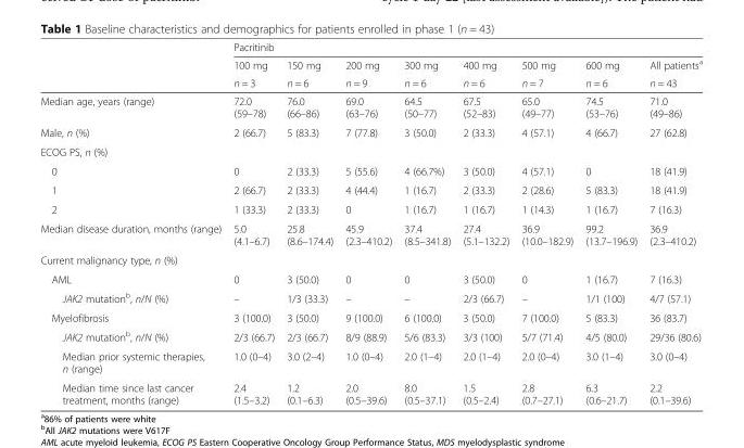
<table><thead><tr><td rowspan="3"></td><td colspan="8">Pacritinib</td></tr><tr><td rowspan="2">100 mg n = 3</td><td rowspan="2">150 mg n = 6</td><td rowspan="2">200 mg n = 9</td><td rowspan="2">300 mg n = 6</td><td rowspan="2">400 mg n = 6</td><td rowspan="2">500 mg n = 7</td><td rowspan="2">600 mg n = 6</td><td rowspan="2">All patients<sup>a</sup> n = 43</td></tr><tr></tr></thead><tbody><tr><td>Median age, years (range)</td><td>72.0 (59–78)</td><td>76.0 (66–86)</td><td>69.0 (63–76)</td><td>64.5 (50–77)</td><td>67.5 (52–83)</td><td>65.0 (49–77)</td><td>74.5 (53–76)</td><td>71.0 (49–86)</td></tr><tr><td>Male, n (%)</td><td>2 (66.7)</td><td>5 (83.3)</td><td>7 (77.8)</td><td>3 (50.0)</td><td>2 (33.3)</td><td>4 (57.1)</td><td>4 (66.7)</td><td>27 (62.8)</td></tr><tr><td colspan="9">ECOG PS, n (%)</td></tr><tr><td>0</td><td>0</td><td>2 (33.3)</td><td>5 (55.6)</td><td>4 (66.7%)</td><td>3 (50.0)</td><td>4 (57.1)</td><td>0</td><td>18 (41.9)</td></tr><tr><td>1</td><td>2 (66.7)</td><td>2 (33.3)</td><td>4 (44.4)</td><td>1 (16.7)</td><td>2 (33.3)</td><td>2 (28.6)</td><td>5 (83.3)</td><td>18 (41.9)</td></tr><tr><td>2</td><td>1 (33.3)</td><td>2 (33.3)</td><td>0</td><td>1 (16.7)</td><td>1 (16.7)</td><td>1 (14.3)</td><td>1 (16.7)</td><td>7 (16.3)</td></tr><tr><td>Median disease duration, months (range)</td><td>5.0 (4.1–6.7)</td><td>25.8 (8.6–174.4)</td><td>45.9 (2.3–410.2)</td><td>37.4 (8.5–341.8)</td><td>27.4 (5.1–132.2)</td><td>36.9 (10.0–182.9)</td><td>99.2 (13.7–196.9)</td><td>36.9 (2.3–410.2)</td></tr><tr><td colspan="9">Current malignancy type, n (%)</td></tr><tr><td>AML</td><td>0</td><td>3 (50.0)</td><td>0</td><td>0</td><td>3 (50.0)</td><td>0</td><td>1 (16.7)</td><td>7 (16.3)</td></tr><tr><td>JAK2 mutation<sup>b</sup>, n/N (%)</td><td>–</td><td>1/3 (33.3)</td><td>–</td><td>–</td><td>2/3 (66.7)</td><td>–</td><td>1/1 (100)</td><td>4/7 (57.1)</td></tr><tr><td>Myelofibrosis</td><td>3 (100.0)</td><td>3 (50.0)</td><td>9 (100.0)</td><td>6 (100.0)</td><td>3 (50.0)</td><td>7 (100.0)</td><td>5 (83.3)</td><td>36 (83.7)</td></tr><tr><td>JAK2 mutation<sup>b</sup>, n/N (%)</td><td>2/3 (66.7)</td><td>2/3 (66.7)</td><td>8/9 (88.9)</td><td>5/6 (83.3)</td><td>3/3 (100)</td><td>5/7 (71.4)</td><td>4/5 (80.0)</td><td>29/36 (80.6)</td></tr><tr><td>Median prior systemic therapies, n (range)</td><td>1.0 (0–4)</td><td>3.0 (2–4)</td><td>1.0 (0–4)</td><td>2.0 (1–4)</td><td>2.0 (1–4)</td><td>2.0 (0–4)</td><td>3.0 (1–4)</td><td>3.0 (0–4)</td></tr><tr><td>Median time since last cancer treatment, months (range)</td><td>2.4 (1.5–3.2)</td><td>1.2 (0.1–6.3)</td><td>2.0 (0.5–39.6)</td><td>8.0 (0.5–37.1)</td><td>1.5 (0.5–2.4)</td><td>2.8 (0.7–27.1)</td><td>6.3 (0.6–21.7)</td><td>2.2 (0.1–39.6)</td></tr></tbody></table>